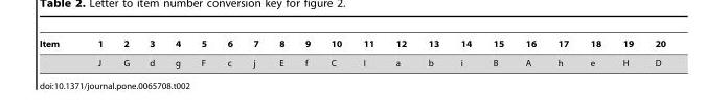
<table><thead><tr><td>Item</td><td>1</td><td>2</td><td>3</td><td>4</td><td>5</td><td>6</td><td>7</td><td>8</td><td>9</td><td>10</td><td>11</td><td>12</td><td>13</td><td>14</td><td>15</td><td>16</td><td>17</td><td>18</td><td>19</td><td>20</td></tr></thead><tbody><tr><td></td><td>J</td><td>G</td><td>d</td><td>g</td><td>F</td><td>c</td><td>j</td><td>E</td><td>f</td><td>C</td><td>I</td><td>a</td><td>b</td><td>i</td><td>B</td><td>A</td><td>h</td><td>e</td><td>H</td><td>D</td></tr></tbody></table>